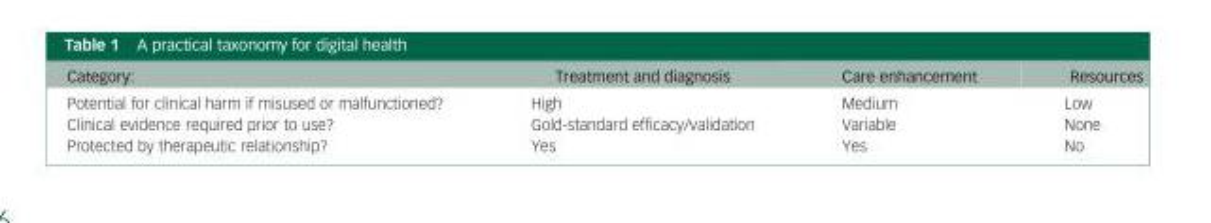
<table><thead><tr><td>Category:</td><td>Treatment and diagnosis</td><td>Care enhancement</td><td>Resources</td></tr></thead><tbody><tr><td>Potential for clinical harm if misused or malfunctioned?</td><td>High</td><td>Medium</td><td>Low</td></tr><tr><td>Clinical evidence required prior to use?</td><td>Gold-standard efficacy/validation</td><td>Variable</td><td>None</td></tr><tr><td>Protected by therapeutic relationship?</td><td>Yes</td><td>Yes</td><td>No</td></tr></tbody></table>